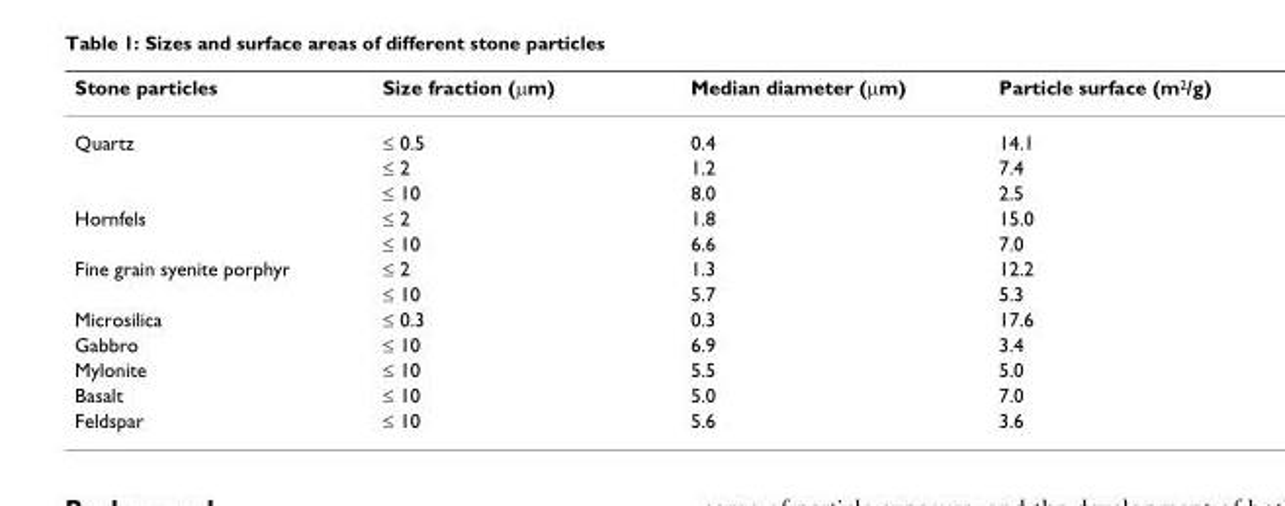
<table><thead><tr><td>Stone particles</td><td>Size fraction (µm)</td><td>Median diameter (µm)</td><td>Particle surface (m<sup>2</sup>/g)</td></tr></thead><tbody><tr><td rowspan="3">Quartz</td><td>≤ 0.5</td><td>0.4</td><td>14.1</td></tr><tr><td>≤ 2</td><td>1.2</td><td>7.4</td></tr><tr><td>≤ 10</td><td>8.0</td><td>2.5</td></tr><tr><td rowspan="2">Hornfels</td><td>≤ 2</td><td>1.8</td><td>15.0</td></tr><tr><td>≤ 10</td><td>6.6</td><td>7.0</td></tr><tr><td rowspan="2">Fine grain syenite porphyr</td><td>≤ 2</td><td>1.3</td><td>12.2</td></tr><tr><td>≤ 10</td><td>5.7</td><td>5.3</td></tr><tr><td>Microsilica</td><td>≤ 0.3</td><td>0.3</td><td>17.6</td></tr><tr><td>Gabbro</td><td>≤ 10</td><td>6.9</td><td>3.4</td></tr><tr><td>Mylonite</td><td>≤ 10</td><td>5.5</td><td>5.0</td></tr><tr><td>Basalt</td><td>≤ 10</td><td>5.0</td><td>7.0</td></tr><tr><td>Feldspar</td><td>≤ 10</td><td>5.6</td><td>3.6</td></tr></tbody></table>